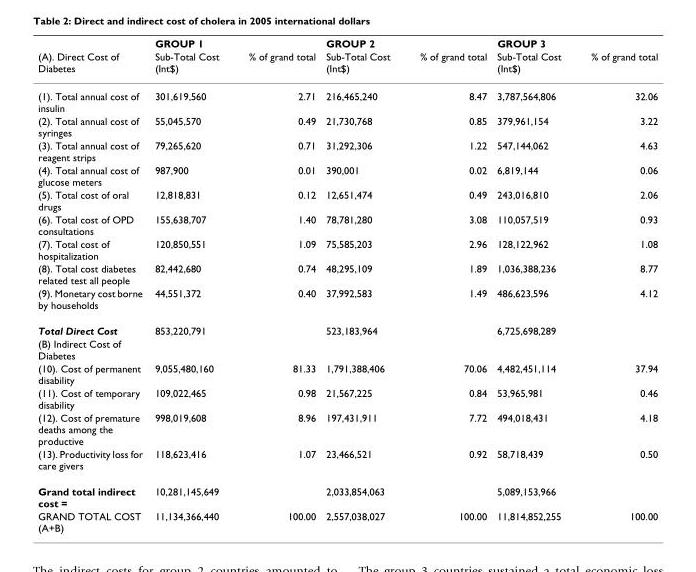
<table><thead><tr><td rowspan="2">(A). Direct Cost of Diabetes</td><td rowspan="2">GROUP 1 Sub-Total Cost (Int$)</td><td rowspan="2">% of grand total</td><td rowspan="2">GROUP 2 Sub-Total Cost (Int$)</td><td rowspan="2">% of grand total</td><td rowspan="2">GROUP 3 Sub-Total Cost (Int$)</td><td rowspan="2">% of grand total</td></tr><tr></tr></thead><tbody><tr><td>(1). Total annual cost of insulin</td><td>301,619,560</td><td>2.71</td><td>216,465,240</td><td>8.47</td><td>3,787,564,806</td><td>32.06</td></tr><tr><td>(2). Total annual cost of syringes</td><td>55,045,570</td><td>0.49</td><td>21,730,768</td><td>0.85</td><td>379,961,154</td><td>3.22</td></tr><tr><td>(3). Total annual cost of reagent strips</td><td>79,265,620</td><td>0.71</td><td>31,292,306</td><td>1.22</td><td>547,144,062</td><td>4.63</td></tr><tr><td>(4). Total annual cost of glucose meters</td><td>987,900</td><td>0.01</td><td>390,001</td><td>0.02</td><td>6,819,144</td><td>0.06</td></tr><tr><td>(5). Total cost of oral drugs</td><td>12,818,831</td><td>0.12</td><td>12,651,474</td><td>0.49</td><td>243,016,810</td><td>2.06</td></tr><tr><td>(6). Total cost of OPD consultations</td><td>155,638,707</td><td>1.40</td><td>78,781,280</td><td>3.08</td><td>110,057,519</td><td>0.93</td></tr><tr><td>(7). Total cost of hospitalization</td><td>120,850,551</td><td>1.09</td><td>75,585,203</td><td>2.96</td><td>128,122,962</td><td>1.08</td></tr><tr><td>(8). Total cost diabetes related test all people</td><td>82,442,680</td><td>0.74</td><td>48,295,109</td><td>1.89</td><td>1,036,388,236</td><td>8.77</td></tr><tr><td>(9). Monetary cost borne by households</td><td>44,551,372</td><td>0.40</td><td>37,992,583</td><td>1.49</td><td>486,623,596</td><td>4.12</td></tr><tr><td>Total Direct Cost</td><td>853,220,791</td><td></td><td>523,183,964</td><td></td><td>6,725,698,289</td><td></td></tr><tr><td colspan="7">(B) Indirect Cost of Diabetes</td></tr><tr><td>(10). Cost of permanent disability</td><td>9,055,480,160</td><td>81.33</td><td>1,791,388,406</td><td>70.06</td><td>4,482,451,114</td><td>37.94</td></tr><tr><td>(11). Cost of temporary disability</td><td>109,022,465</td><td>0.98</td><td>21,567,225</td><td>0.84</td><td>53,965,981</td><td>0.46</td></tr><tr><td>(12). Cost of premature deaths among the productive</td><td>998,019,608</td><td>8.96</td><td>197,431,911</td><td>7.72</td><td>494,018,431</td><td>4.18</td></tr><tr><td>(13). Productivity loss for care givers</td><td>118,623,416</td><td>1.07</td><td>23,466,521</td><td>0.92</td><td>58,718,439</td><td>0.50</td></tr><tr><td>Grand total indirect cost =</td><td>10,281,145,649</td><td></td><td>2,033,854,063</td><td></td><td>5,089,153,966</td><td></td></tr><tr><td>GRAND TOTAL COST (A+B)</td><td>11,134,366,440</td><td>100.00</td><td>2,557,038,027</td><td>100.00</td><td>11,814,852,255</td><td>100.00</td></tr></tbody></table>